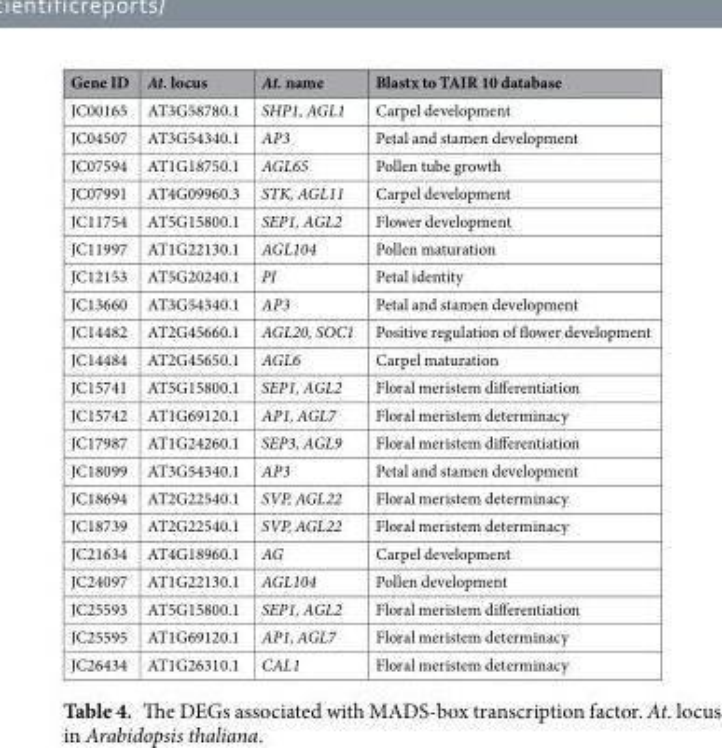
<table><thead><tr><td>Gene ID</td><td>At. locus</td><td>At. name</td><td>Blastx to TAIR 10 database</td></tr></thead><tbody><tr><td>JC00165</td><td>AT3G58780.1</td><td>SHP1, AGL1</td><td>Carpel development</td></tr><tr><td>JC04507</td><td>AT3G54340.1</td><td>AP3</td><td>Petal and stamen development</td></tr><tr><td>JC07594</td><td>AT1G18750.1</td><td>AGL65</td><td>Pollen tube growth</td></tr><tr><td>JC07991</td><td>AT4G09960.3</td><td>STK, AGL11</td><td>Carpel development</td></tr><tr><td>JC11754</td><td>AT5G15800.1</td><td>SEP1, AGL2</td><td>Flower development</td></tr><tr><td>JC11997</td><td>AT1G22130.1</td><td>AGL104</td><td>Pollen maturation</td></tr><tr><td>JC12153</td><td>AT5G20240.1</td><td>PI</td><td>Petal identity</td></tr><tr><td>JC13660</td><td>AT3G54340.1</td><td>AP3</td><td>Petal and stamen development</td></tr><tr><td>JC14482</td><td>AT2G45660.1</td><td>AGL20, SOC1</td><td>Positive regulation of flower development</td></tr><tr><td>JC14484</td><td>AT2G45650.1</td><td>AGL6</td><td>Carpel maturation</td></tr><tr><td>JC15741</td><td>AT5G15800.1</td><td>SEP1, AGL2</td><td>Floral meristem differentiation</td></tr><tr><td>JC15742</td><td>AT1G69120.1</td><td>AP1, AGL7</td><td>Floral meristem determinacy</td></tr><tr><td>JC17987</td><td>AT1G24260.1</td><td>SEP3, AGL9</td><td>Floral meristem differentiation</td></tr><tr><td>JC18099</td><td>AT3G54340.1</td><td>AP3</td><td>Petal and stamen development</td></tr><tr><td>JC18694</td><td>AT2G22540.1</td><td>SVP, AGL22</td><td>Floral meristem determinacy</td></tr><tr><td>JC18739</td><td>AT2G22540.1</td><td>SVP, AGL22</td><td>Floral meristem determinacy</td></tr><tr><td>JC21634</td><td>AT4G18960.1</td><td>AG</td><td>Carpel development</td></tr><tr><td>JC24097</td><td>AT1G22130.1</td><td>AGL104</td><td>Pollen development</td></tr><tr><td>JC25593</td><td>AT5G15800.1</td><td>SEP1, AGL2</td><td>Floral meristem differentiation</td></tr><tr><td>JC25595</td><td>AT1G69120.1</td><td>AP1, AGL7</td><td>Floral meristem determinacy</td></tr><tr><td>JC26434</td><td>AT1G26310.1</td><td>CAL1</td><td>Floral meristem determinacy</td></tr></tbody></table>